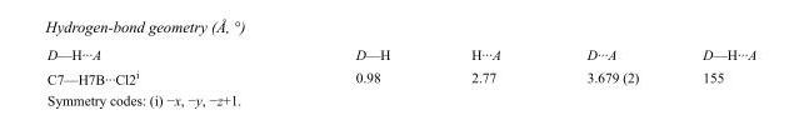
<table><tbody><tr><td>D—H···A</td><td>D—H</td><td>H···A</td><td>D···A</td><td>D—H···A</td></tr><tr><td>C7—H7B···Cl2<sup>i</sup></td><td>0.98</td><td>2.77</td><td>3.679 (2)</td><td>155</td></tr></tbody></table>